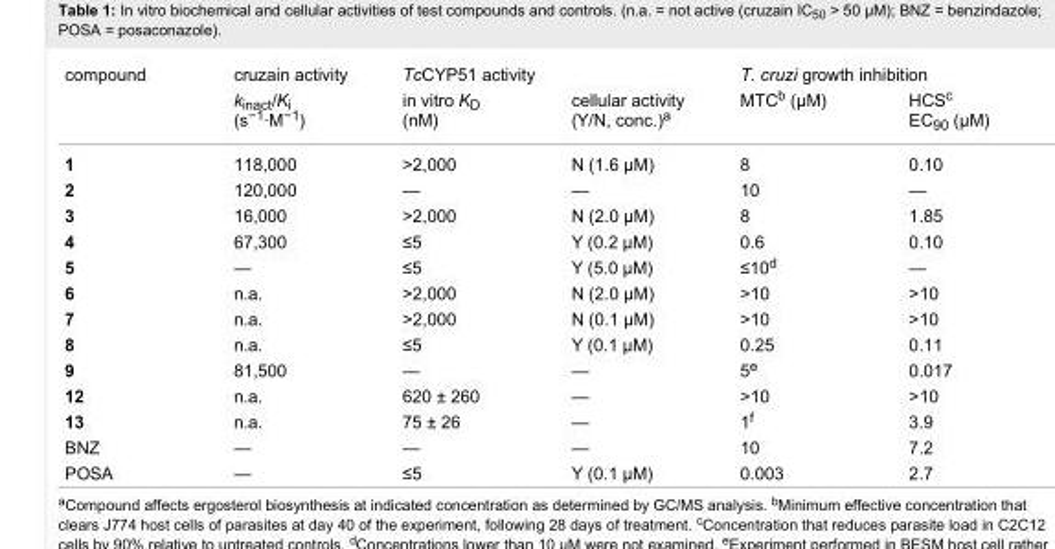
<table><tbody><tr><td rowspan="2">compound</td><td>cruzain activity</td><td colspan="2">TcCYP51 activity</td><td colspan="2">T. cruzi growth inhibition</td></tr><tr><td>k<sub>inact</sub>/K<sub>i</sub> (s<sup>−1</sup>·M<sup>−1</sup>)</td><td>in vitro K<sub>D</sub> (nM)</td><td>cellular activity (Y/N, conc.)<sup>a</sup></td><td>MTC<sup>b</sup> (μM)</td><td>HCS<sup>c</sup> EC<sub>90</sub> (μM)</td></tr><tr><td>1</td><td>118,000</td><td>&gt;2,000</td><td>N (1.6 μM)</td><td>8</td><td>0.10</td></tr><tr><td>2</td><td>120,000</td><td>—</td><td>—</td><td>10</td><td>—</td></tr><tr><td>3</td><td>16,000</td><td>&gt;2,000</td><td>N (2.0 μM)</td><td>8</td><td>1.85</td></tr><tr><td>4</td><td>67,300</td><td>≤5</td><td>Y (0.2 μM)</td><td>0.6</td><td>0.10</td></tr><tr><td>5</td><td>—</td><td>≤5</td><td>Y (5.0 μM)</td><td>≤10<sup>d</sup></td><td>—</td></tr><tr><td>6</td><td>n.a.</td><td>&gt;2,000</td><td>N (2.0 μM)</td><td>&gt;10</td><td>&gt;10</td></tr><tr><td>7</td><td>n.a.</td><td>&gt;2,000</td><td>N (0.1 μM)</td><td>&gt;10</td><td>&gt;10</td></tr><tr><td>8</td><td>n.a.</td><td>≤5</td><td>Y (0.1 μM)</td><td>0.25</td><td>0.11</td></tr><tr><td>9</td><td>81,500</td><td>—</td><td>—</td><td>5<sup>e</sup></td><td>0.017</td></tr><tr><td>12</td><td>n.a.</td><td>620 ± 260</td><td>—</td><td>&gt;10</td><td>&gt;10</td></tr><tr><td>13</td><td>n.a.</td><td>75 ± 26</td><td>—</td><td>1<sup>f</sup></td><td>3.9</td></tr><tr><td>BNZ</td><td>—</td><td>—</td><td>—</td><td>10</td><td>7.2</td></tr><tr><td>POSA</td><td>—</td><td>≤5</td><td>Y (0.1 μM)</td><td>0.003</td><td>2.7</td></tr></tbody></table>